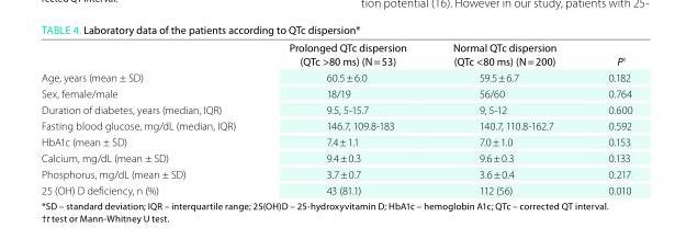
<table><thead><tr><td></td><td>Prolonged QTc dispersion (QTc &gt;80 ms) (n = 53)</td><td>normal QTc dispersion (QTc &lt;80 ms) (n = 200)</td><td>P<sup>†</sup></td></tr></thead><tbody><tr><td>Age, years (mean ± SD)</td><td>60.5 ± 6.0</td><td>59.5 ± 6.7</td><td>0.182</td></tr><tr><td>Sex, female/male</td><td>18/19</td><td>56/60</td><td>0.764</td></tr><tr><td>Duration of diabetes, years (median, IQR)</td><td>9.5, 5-15.7</td><td>9, 5-12</td><td>0.600</td></tr><tr><td>Fasting blood glucose, mg/dL (median, IQR)</td><td>146.7, 109.8-183</td><td>140.7, 110.8-162.7</td><td>0.592</td></tr><tr><td>HbA1c (mean ± SD)</td><td>7.4 ± 1.1</td><td>7.0 ± 1.0</td><td>0.153</td></tr><tr><td>Calcium, mg/dL (mean ± SD)</td><td>9.4 ± 0.3</td><td>9.6 ± 0.3</td><td>0.133</td></tr><tr><td>Phosphorus, mg/dL (mean ± SD)</td><td>3.7 ± 0.7</td><td>3.6 ± 0.4</td><td>0.217</td></tr><tr><td>25 (OH) D deficiency, n (%)</td><td>43 (81.1)</td><td>112 (56)</td><td>0.010</td></tr></tbody></table>